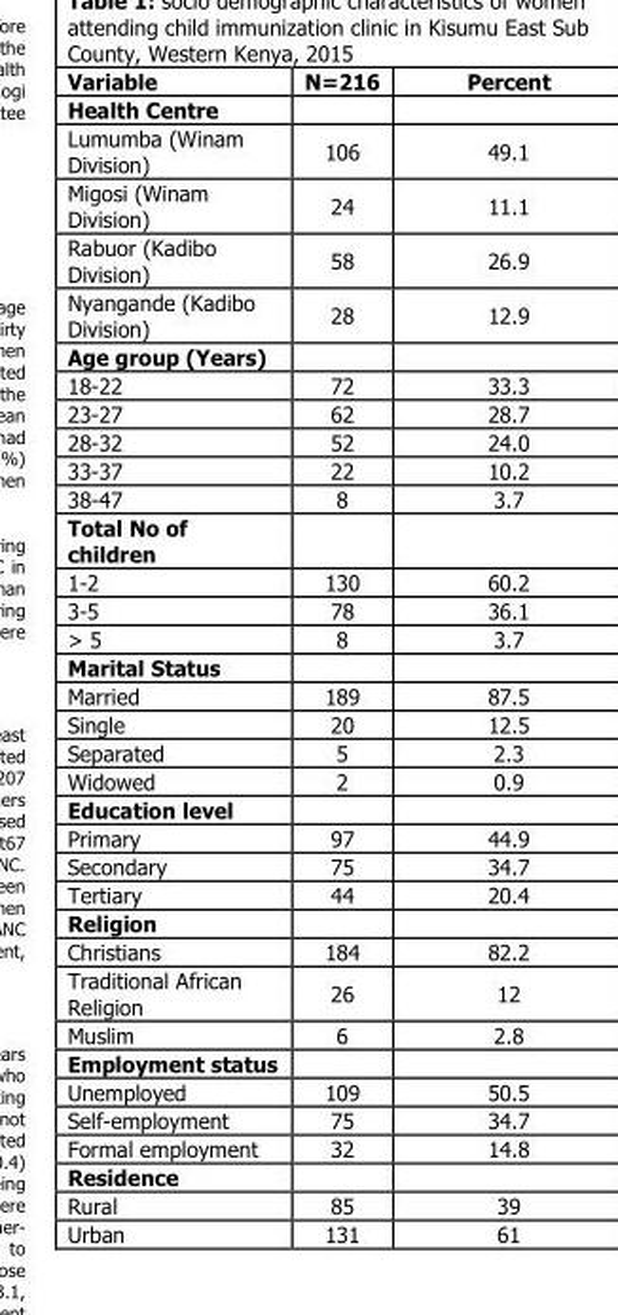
<table><thead><tr><td>Variable</td><td>N=216</td><td>Percent</td></tr></thead><tbody><tr><td colspan="3">Health Centre</td></tr><tr><td>Lumumba (Winam Division)</td><td>106</td><td>49.1</td></tr><tr><td>Migosi (Winam Division)</td><td>24</td><td>11.1</td></tr><tr><td>Rabuor (Kadibo Division)</td><td>58</td><td>26.9</td></tr><tr><td>Nyangande (Kadibo Division)</td><td>28</td><td>12.9</td></tr><tr><td colspan="3">Age group (Years)</td></tr><tr><td>18-22</td><td>72</td><td>33.3</td></tr><tr><td>23-27</td><td>62</td><td>28.7</td></tr><tr><td>28-32</td><td>52</td><td>24.0</td></tr><tr><td>33-37</td><td>22</td><td>10.2</td></tr><tr><td>38-47</td><td>8</td><td>3.7</td></tr><tr><td colspan="3">Total No of children</td></tr><tr><td>1-2</td><td>130</td><td>60.2</td></tr><tr><td>3-5</td><td>78</td><td>36.1</td></tr><tr><td>&gt; 5</td><td>8</td><td>3.7</td></tr><tr><td colspan="3">Marital Status</td></tr><tr><td>Married</td><td>189</td><td>87.5</td></tr><tr><td>Single</td><td>20</td><td>12.5</td></tr><tr><td>Separated</td><td>5</td><td>2.3</td></tr><tr><td>Widowed</td><td>2</td><td>0.9</td></tr><tr><td colspan="3">Education level</td></tr><tr><td>Primary</td><td>97</td><td>44.9</td></tr><tr><td>Secondary</td><td>75</td><td>34.7</td></tr><tr><td>Tertiary</td><td>44</td><td>20.4</td></tr><tr><td colspan="3">Religion</td></tr><tr><td>Christians</td><td>184</td><td>82.2</td></tr><tr><td>Traditional African Religion</td><td>26</td><td>12</td></tr><tr><td>Muslim</td><td>6</td><td>2.8</td></tr><tr><td colspan="3">Employment status</td></tr><tr><td>Unemployed</td><td>109</td><td>50.5</td></tr><tr><td>Self-employment</td><td>75</td><td>34.7</td></tr><tr><td>Formal employment</td><td>32</td><td>14.8</td></tr><tr><td colspan="3">Residence</td></tr><tr><td>Rural</td><td>85</td><td>39</td></tr><tr><td>Urban</td><td>131</td><td>61</td></tr></tbody></table>